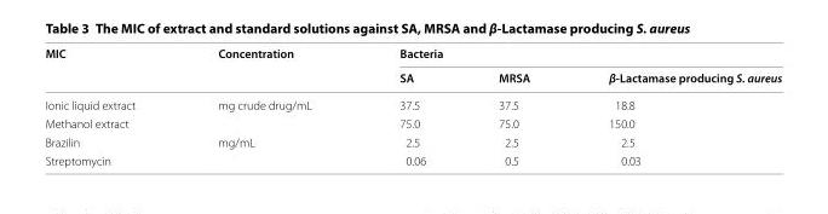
<table><thead><tr><td rowspan="2">MIC</td><td rowspan="2">Concentration</td><td colspan="3">Bacteria</td></tr><tr><td>SA</td><td>MRSA</td><td>β-Lactamase producing S. aureus</td></tr></thead><tbody><tr><td>Ionic liquid extract</td><td rowspan="2">mg crude drug/mL</td><td>37.5</td><td>37.5</td><td>18.8</td></tr><tr><td>Methanol extract</td><td>75.0</td><td>75.0</td><td>150.0</td></tr><tr><td>Brazilin</td><td rowspan="2">mg/mL</td><td>2.5</td><td>2.5</td><td>2.5</td></tr><tr><td>Streptomycin</td><td>0.06</td><td>0.5</td><td>0.03</td></tr></tbody></table>